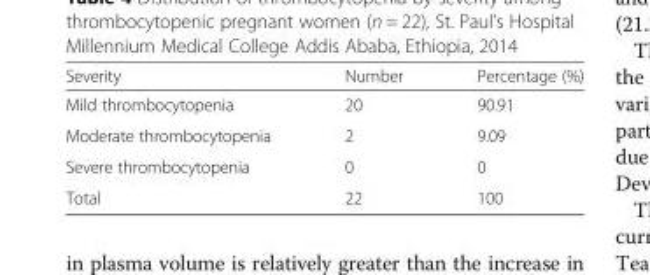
<table><thead><tr><td>Severity</td><td>Number</td><td>Percentage (%)</td></tr></thead><tbody><tr><td>Mild thrombocytopenia</td><td>20</td><td>90.91</td></tr><tr><td>Moderate thrombocytopenia</td><td>2</td><td>9.09</td></tr><tr><td>Severe thrombocytopenia</td><td>0</td><td>0</td></tr><tr><td>Total</td><td>22</td><td>100</td></tr></tbody></table>